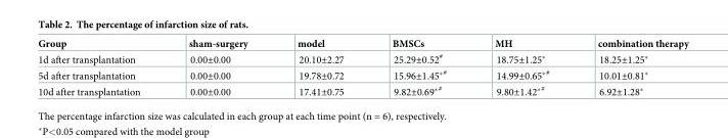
<table><thead><tr><td>Group</td><td>sham-surgery</td><td>model</td><td>BMSCs</td><td>MH</td><td>combination therapy</td></tr></thead><tbody><tr><td>1d after transplantation</td><td>0.00±0.00</td><td>20.10±2.27</td><td>25.29±0.52<sup>#</sup></td><td>18.75±1.25*</td><td>18.25±1.25*</td></tr><tr><td>5d after transplantation</td><td>0.00±0.00</td><td>19.78±0.72</td><td>15.96±1.45*<sup>#</sup></td><td>14.99±0.65*<sup>#</sup></td><td>10.01±0.81*</td></tr><tr><td>10d after transplantation</td><td>0.00±0.00</td><td>17.41±0.75</td><td>9.82±0.69*<sup>#</sup></td><td>9.80±1.42*<sup>#</sup></td><td>6.92±1.28*</td></tr></tbody></table>